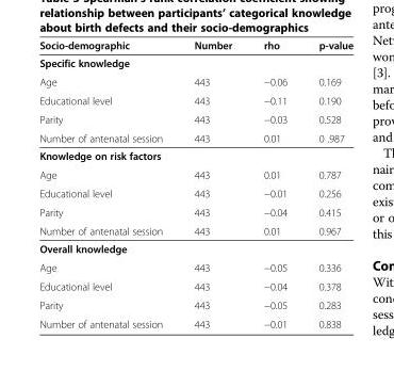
<table><thead><tr><td>Socio-demographic</td><td>Number</td><td>rho</td><td>p-value</td></tr></thead><tbody><tr><td colspan="4">Specific knowledge</td></tr><tr><td>Age</td><td>443</td><td>−0.06</td><td>0.169</td></tr><tr><td>Educational level</td><td>443</td><td>−0.11</td><td>0.190</td></tr><tr><td>Parity</td><td>443</td><td>−0.03</td><td>0.528</td></tr><tr><td>Number of antenatal session</td><td>443</td><td>0.01</td><td>0 .987</td></tr><tr><td colspan="4">Knowledge on risk factors</td></tr><tr><td>Age</td><td>443</td><td>0.01</td><td>0.787</td></tr><tr><td>Educational level</td><td>443</td><td>−0.01</td><td>0.256</td></tr><tr><td>Parity</td><td>443</td><td>−0.04</td><td>0.415</td></tr><tr><td>Number of antenatal session</td><td>443</td><td>0.01</td><td>0.967</td></tr><tr><td colspan="4">Overall knowledge</td></tr><tr><td>Age</td><td>443</td><td>−0.05</td><td>0.336</td></tr><tr><td>Educational level</td><td>443</td><td>−0.04</td><td>0.378</td></tr><tr><td>Parity</td><td>443</td><td>−0.05</td><td>0.283</td></tr><tr><td>Number of antenatal session</td><td>443</td><td>−0.01</td><td>0.838</td></tr></tbody></table>